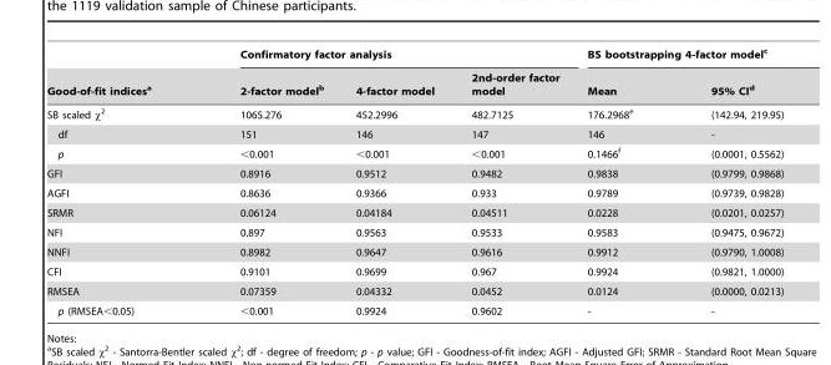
<table><thead><tr><td rowspan="2">Good-of-fit indices<sup>a</sup></td><td colspan="3">Confirmatory factor analysis</td><td colspan="2">BS bootstrapping 4-factor model<sup>c</sup></td></tr><tr><td>2-factor model<sup>b</sup></td><td>4-factor model</td><td>2nd-order factor model</td><td>Mean</td><td>95% CI<sup>d</sup></td></tr></thead><tbody><tr><td>SB scaled χ<sup>2</sup></td><td>1065.276</td><td>452.2996</td><td>482.7125</td><td>176.2968<sup>e</sup></td><td>(142.94, 219.95)</td></tr><tr><td>df</td><td>151</td><td>146</td><td>147</td><td>146</td><td>-</td></tr><tr><td>p</td><td>&lt;0.001</td><td>&lt;0.001</td><td>&lt;0.001</td><td>0.1466<sup>f</sup></td><td>(0.0001, 0.5562)</td></tr><tr><td>GFI</td><td>0.8916</td><td>0.9512</td><td>0.9482</td><td>0.9838</td><td>(0.9799, 0.9868)</td></tr><tr><td>AGFI</td><td>0.8636</td><td>0.9366</td><td>0.933</td><td>0.9789</td><td>(0.9739, 0.9828)</td></tr><tr><td>SRMR</td><td>0.06124</td><td>0.04184</td><td>0.04511</td><td>0.0228</td><td>(0.0201, 0.0257)</td></tr><tr><td>NFI</td><td>0.897</td><td>0.9563</td><td>0.9533</td><td>0.9583</td><td>(0.9475, 0.9672)</td></tr><tr><td>NNFI</td><td>0.8982</td><td>0.9647</td><td>0.9616</td><td>0.9912</td><td>(0.9790, 1.0008)</td></tr><tr><td>CFI</td><td>0.9101</td><td>0.9699</td><td>0.967</td><td>0.9924</td><td>(0.9821, 1.0000)</td></tr><tr><td>RMSEA</td><td>0.07359</td><td>0.04332</td><td>0.0452</td><td>0.0124</td><td>(0.0000, 0.0213)</td></tr><tr><td>p (RMSEA&lt;0.05)</td><td>&lt;0.001</td><td>0.9924</td><td>0.9602</td><td>-</td><td>-</td></tr></tbody></table>